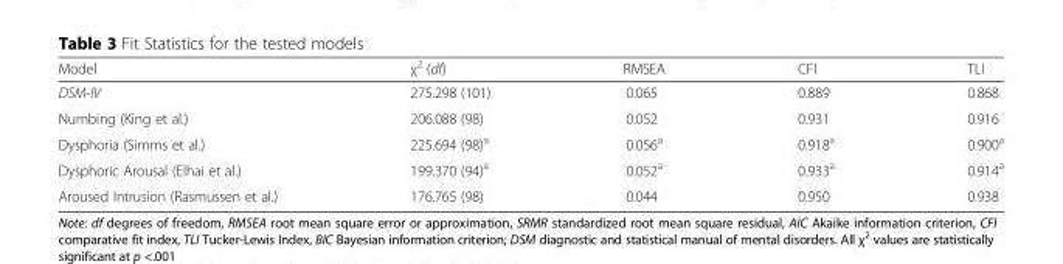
<table><thead><tr><td>Model</td><td>χ<sup>2</sup> (df)</td><td>RMSEA</td><td>CFI</td><td>TLI</td></tr></thead><tbody><tr><td>DSM-IV</td><td>275.298 (101)</td><td>0.065</td><td>0.889</td><td>0.868</td></tr><tr><td>Numbing (King et al.)</td><td>206.088 (98)</td><td>0.052</td><td>0.931</td><td>0.916</td></tr><tr><td>Dysphoria (Simms et al.)</td><td>225.694 (98)<sup>a</sup></td><td>0.056<sup>a</sup></td><td>0.918<sup>a</sup></td><td>0.900<sup>a</sup></td></tr><tr><td>Dysphoric Arousal (Elhai et al.)</td><td>199.370 (94)<sup>a</sup></td><td>0.052<sup>a</sup></td><td>0.933<sup>a</sup></td><td>0.914<sup>a</sup></td></tr><tr><td>Aroused Intrusion (Rasmussen et al.)</td><td>176.765 (98)</td><td>0.044</td><td>0.950</td><td>0.938</td></tr></tbody></table>